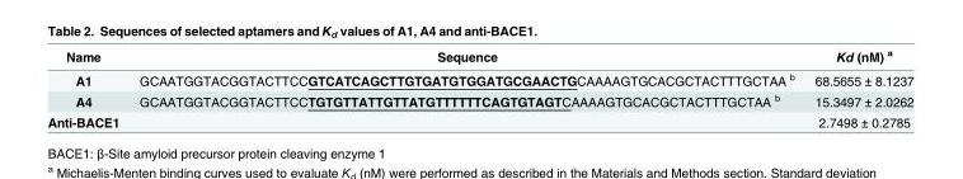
<table><thead><tr><td>Name</td><td>Sequence</td><td>Kd (nM) <sup>a</sup></td></tr></thead><tbody><tr><td>A1</td><td>GCAATGGTACGGTACTTCCGTCATCAGCTTGTGATGTGGATGCGAACTGCAAAAGTGCACGCTACTTTGCTAA <sup>b</sup></td><td>68.5655 ± 8.1237</td></tr><tr><td>A4</td><td>GCAATGGTACGGTACTTCCTGTGTTATTGTTATGTTTTTTCAGTGTAGTCAAAAGTGCACGCTACTTTGCTAA <sup>b</sup></td><td>15.3497 ± 2.0262</td></tr><tr><td>Anti-BACE1</td><td></td><td>2.7498 ± 0.2785</td></tr></tbody></table>